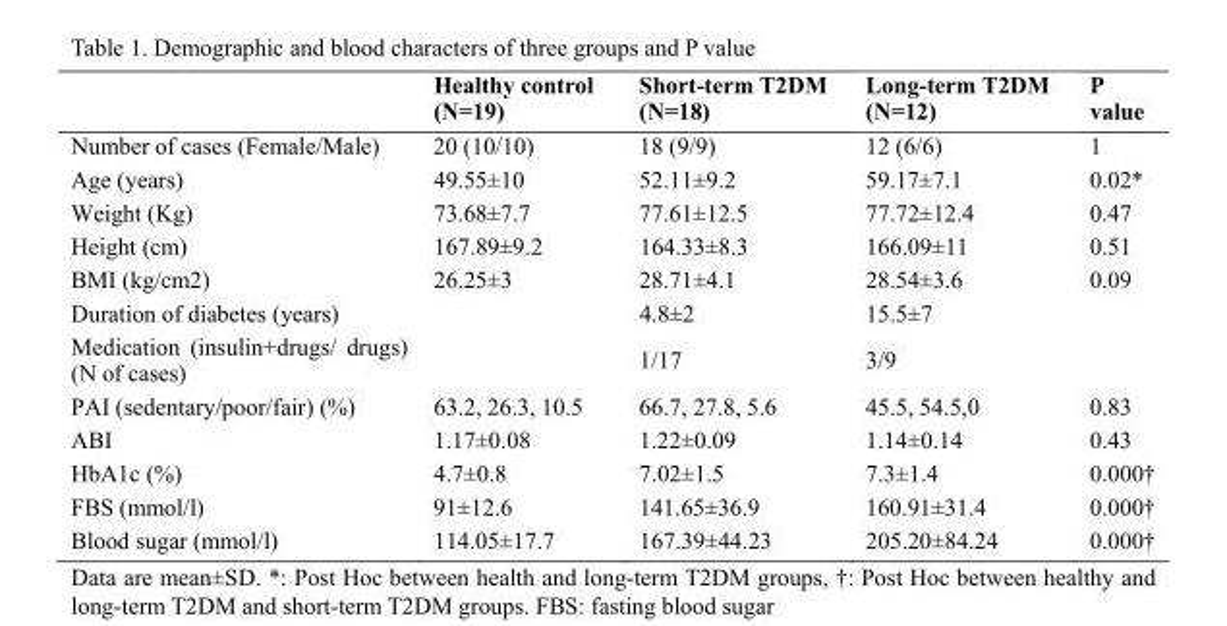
<table><thead><tr><td></td><td>Healthy control (N=19)</td><td>Short-term T2DM (N=18)</td><td>Long-term T2DM (N=12)</td><td>P value</td></tr></thead><tbody><tr><td>Number of cases (Female/Male)</td><td>20 (10/10)</td><td>18 (9/9)</td><td>12 (6/6)</td><td>1</td></tr><tr><td>Age (years)</td><td>49.55±10</td><td>52.11±9.2</td><td>59.17±7.1</td><td>0.02*</td></tr><tr><td>Weight (Kg)</td><td>73.68±7.7</td><td>77.61±12.5</td><td>77.72±12.4</td><td>0.47</td></tr><tr><td>Height (cm)</td><td>167.89±9.2</td><td>164.33±8.3</td><td>166.09±11</td><td>0.51</td></tr><tr><td>BMI (kg/cm2)</td><td>26.25±3</td><td>28.71±4.1</td><td>28.54±3.6</td><td>0.09</td></tr><tr><td>Duration of diabetes (years)</td><td></td><td>4.8±2</td><td>15.5±7</td><td></td></tr><tr><td>Medication (insulin+drugs/ drugs) (N of cases)</td><td></td><td>1/17</td><td>3/9</td><td></td></tr><tr><td>PAI (sedentary/poor/fair) (%)</td><td>63.2, 26.3, 10.5</td><td>66.7, 27.8, 5.6</td><td>45.5, 54.5,0</td><td>0.83</td></tr><tr><td>ABI</td><td>1.17±0.08</td><td>1.22±0.09</td><td>1.14±0.14</td><td>0.43</td></tr><tr><td>HbA1c (%)</td><td>4.7±0.8</td><td>7.02±1.5</td><td>7.3±1.4</td><td>0.000†</td></tr><tr><td>FBS (mmol/l)</td><td>91±12.6</td><td>141.65±36.9</td><td>160.91±31.4</td><td>0.000†</td></tr><tr><td>Blood sugar (mmol/l)</td><td>114.05±17.7</td><td>167.39±44.23</td><td>205.20±84.24</td><td>0.000†</td></tr></tbody></table>